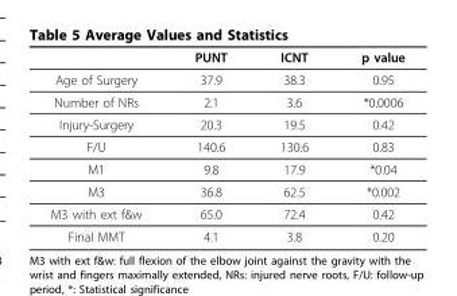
<table><thead><tr><td></td><td>PUNT</td><td>ICNT</td><td>p value</td></tr></thead><tbody><tr><td>Age of Surgery</td><td>37.9</td><td>38.3</td><td>0.95</td></tr><tr><td>Number of NRs</td><td>2.1</td><td>3.6</td><td>*0.0006</td></tr><tr><td>Injury-Surgery</td><td>20.3</td><td>19.5</td><td>0.42</td></tr><tr><td>F/U</td><td>140.6</td><td>130.6</td><td>0.83</td></tr><tr><td>M1</td><td>9.8</td><td>17.9</td><td>*0.04</td></tr><tr><td>M3</td><td>36.8</td><td>62.5</td><td>*0.002</td></tr><tr><td>M3 with ext f&amp;w</td><td>65.0</td><td>72.4</td><td>0.42</td></tr><tr><td>Final MMT</td><td>4.1</td><td>3.8</td><td>0.20</td></tr></tbody></table>